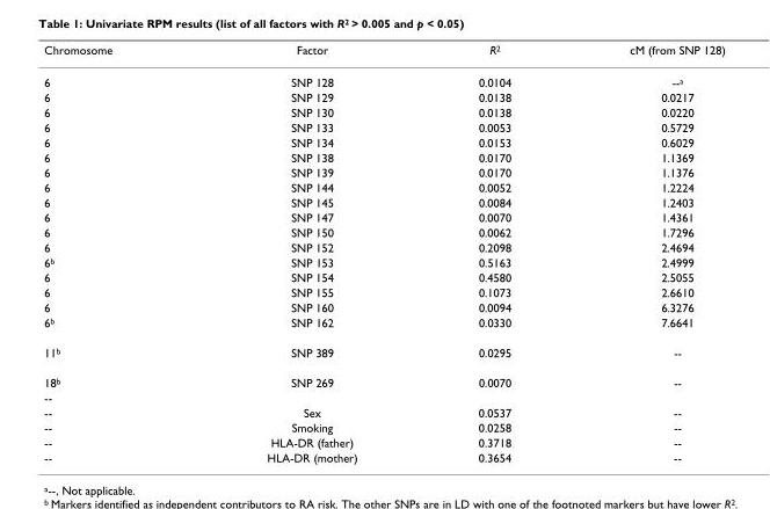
<table><thead><tr><td>Chromosome</td><td>Factor</td><td>R<sup>2</sup></td><td>cM (from SNP 128)</td></tr></thead><tbody><tr><td>6</td><td>SNP 128</td><td>0.0104</td><td>--<sup>a</sup></td></tr><tr><td>6</td><td>SNP 129</td><td>0.0138</td><td>0.0217</td></tr><tr><td>6</td><td>SNP 130</td><td>0.0138</td><td>0.0220</td></tr><tr><td>6</td><td>SNP 133</td><td>0.0053</td><td>0.5729</td></tr><tr><td>6</td><td>SNP 134</td><td>0.0153</td><td>0.6029</td></tr><tr><td>6</td><td>SNP 138</td><td>0.0170</td><td>1.1369</td></tr><tr><td>6</td><td>SNP 139</td><td>0.0170</td><td>1.1376</td></tr><tr><td>6</td><td>SNP 144</td><td>0.0052</td><td>1.2224</td></tr><tr><td>6</td><td>SNP 145</td><td>0.0084</td><td>1.2403</td></tr><tr><td>6</td><td>SNP 147</td><td>0.0070</td><td>1.4361</td></tr><tr><td>6</td><td>SNP 150</td><td>0.0062</td><td>1.7296</td></tr><tr><td>6</td><td>SNP 152</td><td>0.2098</td><td>2.4694</td></tr><tr><td>6<sup>b</sup></td><td>SNP 153</td><td>0.5163</td><td>2.4999</td></tr><tr><td>6</td><td>SNP 154</td><td>0.4580</td><td>2.5055</td></tr><tr><td>6</td><td>SNP 155</td><td>0.1073</td><td>2.6610</td></tr><tr><td>6</td><td>SNP 160</td><td>0.0094</td><td>6.3276</td></tr><tr><td>6<sup>b</sup></td><td>SNP 162</td><td>0.0330</td><td>7.6641</td></tr><tr><td>11<sup>b</sup></td><td>SNP 389</td><td>0.0295</td><td>--</td></tr><tr><td>18<sup>b</sup></td><td>SNP 269</td><td>0.0070</td><td>--</td></tr><tr><td colspan="4">--</td></tr><tr><td>--</td><td>Sex</td><td>0.0537</td><td>--</td></tr><tr><td>--</td><td>Smoking</td><td>0.0258</td><td>--</td></tr><tr><td>--</td><td>HLA-DR (father)</td><td>0.3718</td><td>--</td></tr><tr><td>--</td><td>HLA-DR (mother)</td><td>0.3654</td><td>--</td></tr></tbody></table>